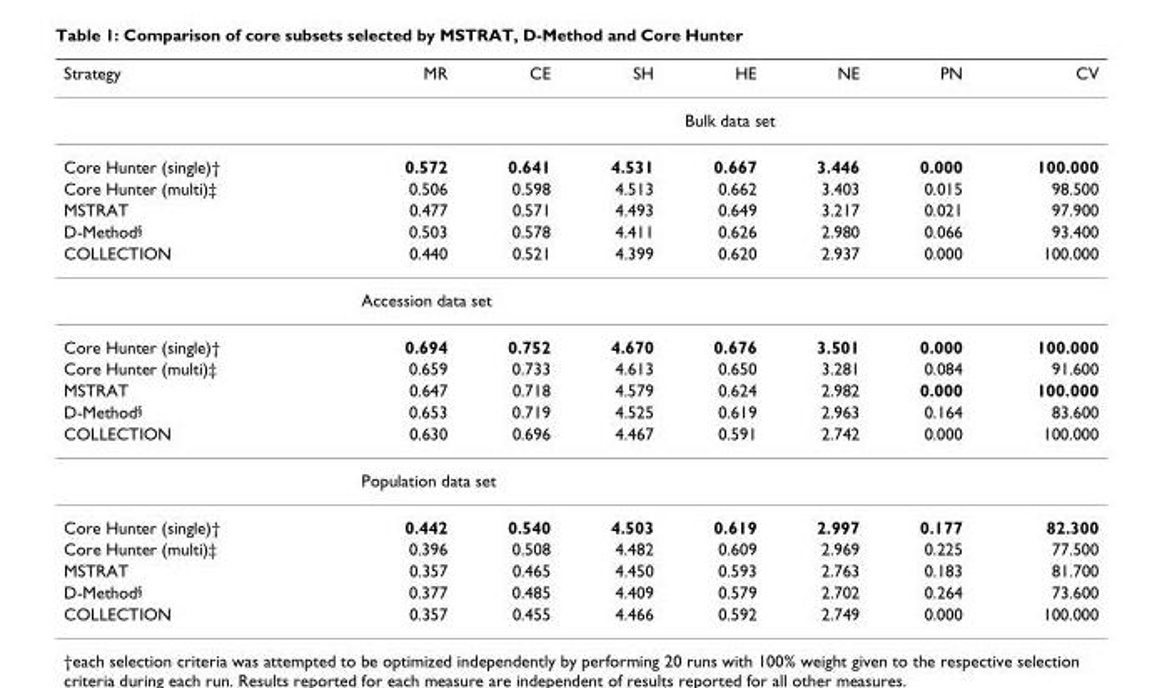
<table><thead><tr><td>Strategy</td><td>MR</td><td>CE</td><td>SH</td><td>HE</td><td>NE</td><td>PN</td><td>CV</td></tr></thead><tbody><tr><td></td><td colspan="7">Bulk data set</td></tr><tr><td>Core Hunter (single)†</td><td>0.572</td><td>0.641</td><td>4.531</td><td>0.667</td><td>3.446</td><td>0.000</td><td>100.000</td></tr><tr><td>Core Hunter (multi)‡</td><td>0.506</td><td>0.598</td><td>4.513</td><td>0.662</td><td>3.403</td><td>0.015</td><td>98.500</td></tr><tr><td>MSTRAT</td><td>0.477</td><td>0.571</td><td>4.493</td><td>0.649</td><td>3.217</td><td>0.021</td><td>97.900</td></tr><tr><td>D-Method<sup>§</sup></td><td>0.503</td><td>0.578</td><td>4.411</td><td>0.626</td><td>2.980</td><td>0.066</td><td>93.400</td></tr><tr><td rowspan="2">COLLECTION</td><td>0.440</td><td>0.521</td><td>4.399</td><td>0.620</td><td>2.937</td><td>0.000</td><td>100.000</td></tr><tr><td colspan="7">Accession data set</td></tr><tr><td>Core Hunter (single)†</td><td>0.694</td><td>0.752</td><td>4.670</td><td>0.676</td><td>3.501</td><td>0.000</td><td>100.000</td></tr><tr><td>Core Hunter (multi)‡</td><td>0.659</td><td>0.733</td><td>4.613</td><td>0.650</td><td>3.281</td><td>0.084</td><td>91.600</td></tr><tr><td>MSTRAT</td><td>0.647</td><td>0.718</td><td>4.579</td><td>0.624</td><td>2.982</td><td>0.000</td><td>100.000</td></tr><tr><td>D-Method<sup>§</sup></td><td>0.653</td><td>0.719</td><td>4.525</td><td>0.619</td><td>2.963</td><td>0.164</td><td>83.600</td></tr><tr><td rowspan="2">COLLECTION</td><td>0.630</td><td>0.696</td><td>4.467</td><td>0.591</td><td>2.742</td><td>0.000</td><td>100.000</td></tr><tr><td colspan="7">Population data set</td></tr><tr><td>Core Hunter (single)†</td><td>0.442</td><td>0.540</td><td>4.503</td><td>0.619</td><td>2.997</td><td>0.177</td><td>82.300</td></tr><tr><td>Core Hunter (multi)‡</td><td>0.396</td><td>0.508</td><td>4.482</td><td>0.609</td><td>2.969</td><td>0.225</td><td>77.500</td></tr><tr><td>MSTRAT</td><td>0.357</td><td>0.465</td><td>4.450</td><td>0.593</td><td>2.763</td><td>0.183</td><td>81.700</td></tr><tr><td>D-Method<sup>§</sup></td><td>0.377</td><td>0.485</td><td>4.409</td><td>0.579</td><td>2.702</td><td>0.264</td><td>73.600</td></tr><tr><td>COLLECTION</td><td>0.357</td><td>0.455</td><td>4.466</td><td>0.592</td><td>2.749</td><td>0.000</td><td>100.000</td></tr></tbody></table>